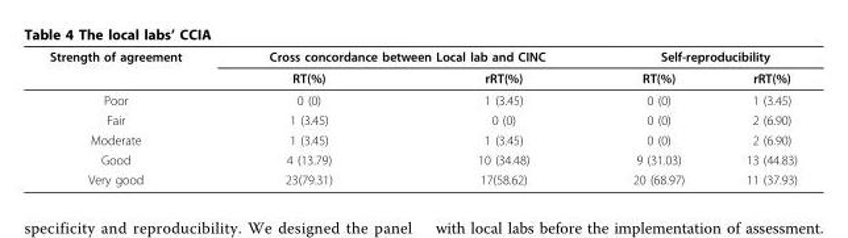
<table><thead><tr><td rowspan="2">Strength of agreement</td><td colspan="2">Cross concordance between Local lab and CINC</td><td colspan="2">Self-reproducibility</td></tr><tr><td>RT(%)</td><td>rRT(%)</td><td>RT(%)</td><td>rRT(%)</td></tr></thead><tbody><tr><td>Poor</td><td>0 (0)</td><td>1 (3.45)</td><td>0 (0)</td><td>1 (3.45)</td></tr><tr><td>Fair</td><td>1 (3.45)</td><td>0 (0)</td><td>0 (0)</td><td>2 (6.90)</td></tr><tr><td>Moderate</td><td>1 (3.45)</td><td>1 (3.45)</td><td>0 (0)</td><td>2 (6.90)</td></tr><tr><td>Good</td><td>4 (13.79)</td><td>10 (34.48)</td><td>9 (31.03)</td><td>13 (44.83)</td></tr><tr><td>Very good</td><td>23(79.31)</td><td>17(58.62)</td><td>20 (68.97)</td><td>11 (37.93)</td></tr></tbody></table>